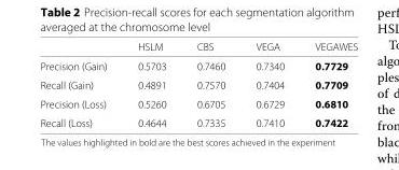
<table><thead><tr><td></td><td>HSLM</td><td>CBS</td><td>VEGA</td><td>VEGAWES</td></tr></thead><tbody><tr><td>Precision (Gain)</td><td>0.5703</td><td>0.7460</td><td>0.7340</td><td>0.7729</td></tr><tr><td>Recall (Gain)</td><td>0.4891</td><td>0.7570</td><td>0.7404</td><td>0.7709</td></tr><tr><td>Precision (Loss)</td><td>0.5260</td><td>0.6705</td><td>0.6729</td><td>0.6810</td></tr><tr><td>Recall (Loss)</td><td>0.4644</td><td>0.7335</td><td>0.7410</td><td>0.7422</td></tr></tbody></table>